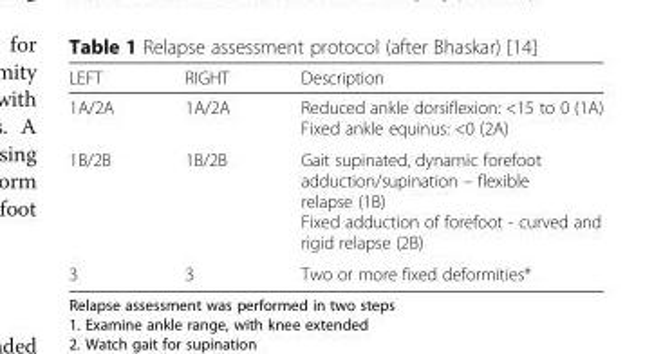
<table><thead><tr><td>LEFT</td><td>RIGHT</td><td>Description</td></tr></thead><tbody><tr><td>1A/2A</td><td>1A/2A</td><td>Reduced ankle dorsiflexion: &lt;15 to 0 (1A) Fixed ankle equinus: &lt;0 (2A)</td></tr><tr><td>1B/2B</td><td>1B/2B</td><td>Gait supinated, dynamic forefoot adduction/supination – flexible relapse (1B) Fixed adduction of forefoot - curved and rigid relapse (2B)</td></tr><tr><td>3</td><td>3</td><td>Two or more fixed deformities*</td></tr></tbody></table>